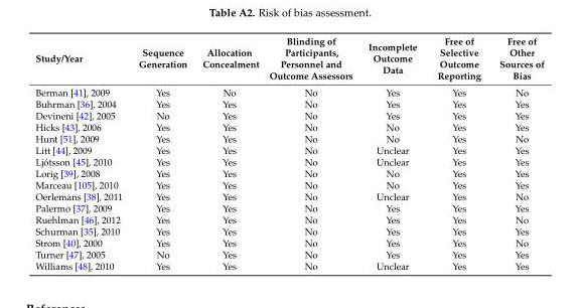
<table><thead><tr><td>Study/Year</td><td>Sequence Generation</td><td>Allocation Concealment</td><td>Blinding of Participants, Personnel and Outcome Assessors</td><td>Incomplete Outcome Data</td><td>Free of Selective Outcome Reporting</td><td>Free of Other Sources of Bias</td></tr></thead><tbody><tr><td>Berman [41], 2009</td><td>Yes</td><td>No</td><td>No</td><td>Yes</td><td>Yes</td><td>No</td></tr><tr><td>Buhrman [36], 2004</td><td>Yes</td><td>Yes</td><td>No</td><td>Yes</td><td>Yes</td><td>Yes</td></tr><tr><td>Devineni [42], 2005</td><td>No</td><td>Yes</td><td>No</td><td>Yes</td><td>Yes</td><td>Yes</td></tr><tr><td>Hicks [43], 2006</td><td>Yes</td><td>Yes</td><td>No</td><td>No</td><td>Yes</td><td>Yes</td></tr><tr><td>Hunt [51], 2009</td><td>Yes</td><td>Yes</td><td>No</td><td>No</td><td>Yes</td><td>No</td></tr><tr><td>Litt [44], 2009</td><td>Yes</td><td>Yes</td><td>No</td><td>Unclear</td><td>Yes</td><td>Yes</td></tr><tr><td>Ljótsson [45], 2010</td><td>Yes</td><td>Yes</td><td>No</td><td>Unclear</td><td>Yes</td><td>Yes</td></tr><tr><td>Lorig [39], 2008</td><td>Yes</td><td>Yes</td><td>No</td><td>No</td><td>Yes</td><td>Yes</td></tr><tr><td>Marceau [105], 2010</td><td>Yes</td><td>Yes</td><td>No</td><td>No</td><td>Yes</td><td>Yes</td></tr><tr><td>Oerlemans [38], 2011</td><td>Yes</td><td>Yes</td><td>No</td><td>Unclear</td><td>Yes</td><td>No</td></tr><tr><td>Palermo [37], 2009</td><td>Yes</td><td>Yes</td><td>No</td><td>Yes</td><td>Yes</td><td>Yes</td></tr><tr><td>Ruehlman [46], 2012</td><td>Yes</td><td>Yes</td><td>No</td><td>Yes</td><td>Yes</td><td>No</td></tr><tr><td>Schurman [35], 2010</td><td>Yes</td><td>Yes</td><td>No</td><td>Yes</td><td>Yes</td><td>Yes</td></tr><tr><td>Strom [40], 2000</td><td>Yes</td><td>Yes</td><td>No</td><td>Yes</td><td>Yes</td><td>No</td></tr><tr><td>Turner [47], 2005</td><td>No</td><td>Yes</td><td>No</td><td>Yes</td><td>Yes</td><td>Yes</td></tr><tr><td>Williams [48], 2010</td><td>Yes</td><td>Yes</td><td>No</td><td>Unclear</td><td>Yes</td><td>Yes</td></tr></tbody></table>